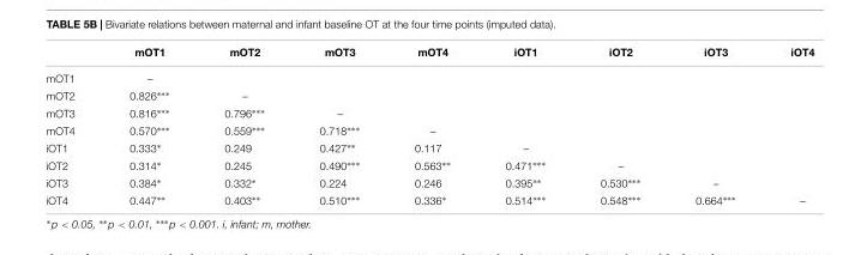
<table><thead><tr><td></td><td>mOT1</td><td>mOT2</td><td>mOT3</td><td>mOT4</td><td>iOT1</td><td>iOT2</td><td>iOT3</td><td>iOT4</td></tr></thead><tbody><tr><td>mOT1</td><td>–</td><td></td><td></td><td></td><td></td><td></td><td></td><td></td></tr><tr><td>mOT2</td><td>0.826∗∗∗</td><td>–</td><td></td><td></td><td></td><td></td><td></td><td></td></tr><tr><td>mOT3</td><td>0.816∗∗∗</td><td>0.796∗∗∗</td><td>–</td><td></td><td></td><td></td><td></td><td></td></tr><tr><td>mOT4</td><td>0.570∗∗∗</td><td>0.559∗∗∗</td><td>0.718∗∗∗</td><td>–</td><td></td><td></td><td></td><td></td></tr><tr><td>iOT1</td><td>0.333∗</td><td>0.249</td><td>0.427∗∗</td><td>0.117</td><td>–</td><td></td><td></td><td></td></tr><tr><td>iOT2</td><td>0.314∗</td><td>0.245</td><td>0.490∗∗∗</td><td>0.563∗∗</td><td>0.471∗∗∗</td><td>–</td><td></td><td></td></tr><tr><td>iOT3</td><td>0.384∗</td><td>0.332∗</td><td>0.224</td><td>0.246</td><td>0.395∗∗</td><td>0.530∗∗∗</td><td>–</td><td></td></tr><tr><td>iOT4</td><td>0.447∗∗</td><td>0.403∗∗</td><td>0.510∗∗∗</td><td>0.336∗</td><td>0.514∗∗∗</td><td>0.548∗∗∗</td><td>0.664∗∗∗</td><td>–</td></tr></tbody></table>